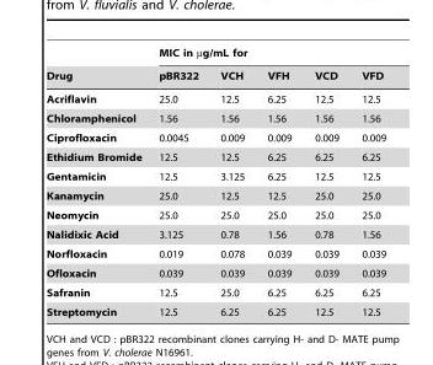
<table><thead><tr><td rowspan="2">Drug</td><td colspan="5">MIC in µg/mL for</td></tr><tr><td>pBR322</td><td>VCH</td><td>VFH</td><td>VCD</td><td>VFD</td></tr></thead><tbody><tr><td>Acriflavin</td><td>25.0</td><td>12.5</td><td>6.25</td><td>12.5</td><td>12.5</td></tr><tr><td>Chloramphenicol</td><td>1.56</td><td>1.56</td><td>1.56</td><td>1.56</td><td>1.56</td></tr><tr><td>Ciprofloxacin</td><td>0.0045</td><td>0.009</td><td>0.009</td><td>0.009</td><td>0.009</td></tr><tr><td>Ethidium Bromide</td><td>12.5</td><td>12.5</td><td>6.25</td><td>6.25</td><td>6.25</td></tr><tr><td>Gentamicin</td><td>12.5</td><td>3.125</td><td>6.25</td><td>12.5</td><td>12.5</td></tr><tr><td>Kanamycin</td><td>25.0</td><td>12.5</td><td>12.5</td><td>25.0</td><td>25.0</td></tr><tr><td>Neomycin</td><td>25.0</td><td>25.0</td><td>25.0</td><td>25.0</td><td>25.0</td></tr><tr><td>Nalidixic Acid</td><td>3.125</td><td>0.78</td><td>1.56</td><td>0.78</td><td>1.56</td></tr><tr><td>Norfloxacin</td><td>0.019</td><td>0.078</td><td>0.039</td><td>0.039</td><td>0.039</td></tr><tr><td>Ofloxacin</td><td>0.039</td><td>0.039</td><td>0.039</td><td>0.039</td><td>0.039</td></tr><tr><td>Safranin</td><td>12.5</td><td>25.0</td><td>6.25</td><td>6.25</td><td>6.25</td></tr><tr><td>Streptomycin</td><td>12.5</td><td>6.25</td><td>6.25</td><td>12.5</td><td>12.5</td></tr></tbody></table>